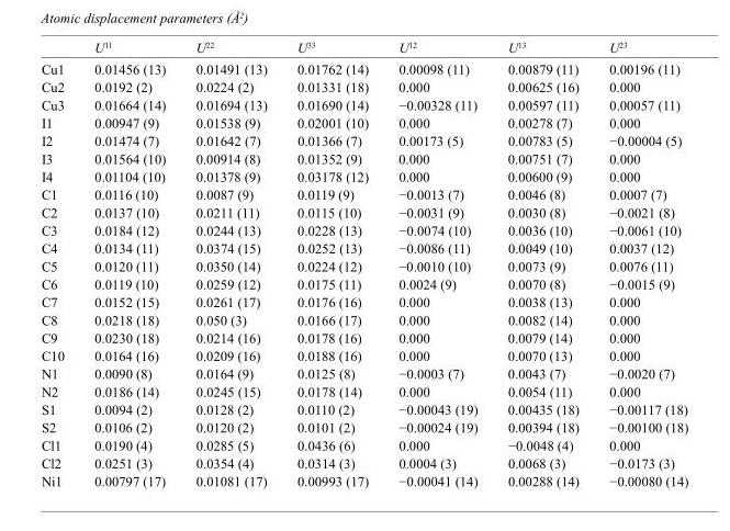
<table><thead><tr><td></td><td>U<sup>11</sup></td><td>U<sup>22</sup></td><td>U<sup>33</sup></td><td>U<sup>12</sup></td><td>U<sup>13</sup></td><td>U<sup>23</sup></td></tr></thead><tbody><tr><td>Cu1</td><td>0.01456 (13)</td><td>0.01491 (13)</td><td>0.01762 (14)</td><td>0.00098 (11)</td><td>0.00879 (11)</td><td>0.00196 (11)</td></tr><tr><td>Cu2</td><td>0.0192 (2)</td><td>0.0224 (2)</td><td>0.01331 (18)</td><td>0.000</td><td>0.00625 (16)</td><td>0.000</td></tr><tr><td>Cu3</td><td>0.01664 (14)</td><td>0.01694 (13)</td><td>0.01690 (14)</td><td>−0.00328 (11)</td><td>0.00597 (11)</td><td>0.00057 (11)</td></tr><tr><td>I1</td><td>0.00947 (9)</td><td>0.01538 (9)</td><td>0.02001 (10)</td><td>0.000</td><td>0.00278 (7)</td><td>0.000</td></tr><tr><td>I2</td><td>0.01474 (7)</td><td>0.01642 (7)</td><td>0.01366 (7)</td><td>0.00173 (5)</td><td>0.00783 (5)</td><td>−0.00004 (5)</td></tr><tr><td>I3</td><td>0.01564 (10)</td><td>0.00914 (8)</td><td>0.01352 (9)</td><td>0.000</td><td>0.00751 (7)</td><td>0.000</td></tr><tr><td>I4</td><td>0.01104 (10)</td><td>0.01378 (9)</td><td>0.03178 (12)</td><td>0.000</td><td>0.00600 (9)</td><td>0.000</td></tr><tr><td>C1</td><td>0.0116 (10)</td><td>0.0087 (9)</td><td>0.0119 (9)</td><td>−0.0013 (7)</td><td>0.0046 (8)</td><td>0.0007 (7)</td></tr><tr><td>C2</td><td>0.0137 (10)</td><td>0.0211 (11)</td><td>0.0115 (10)</td><td>−0.0031 (9)</td><td>0.0030 (8)</td><td>−0.0021 (8)</td></tr><tr><td>C3</td><td>0.0184 (12)</td><td>0.0244 (13)</td><td>0.0228 (13)</td><td>−0.0074 (10)</td><td>0.0036 (10)</td><td>−0.0061 (10)</td></tr><tr><td>C4</td><td>0.0134 (11)</td><td>0.0374 (15)</td><td>0.0252 (13)</td><td>−0.0086 (11)</td><td>0.0049 (10)</td><td>0.0037 (12)</td></tr><tr><td>C5</td><td>0.0120 (11)</td><td>0.0350 (14)</td><td>0.0224 (12)</td><td>−0.0010 (10)</td><td>0.0073 (9)</td><td>0.0076 (11)</td></tr><tr><td>C6</td><td>0.0119 (10)</td><td>0.0259 (12)</td><td>0.0175 (11)</td><td>0.0024 (9)</td><td>0.0070 (8)</td><td>−0.0015 (9)</td></tr><tr><td>C7</td><td>0.0152 (15)</td><td>0.0261 (17)</td><td>0.0176 (16)</td><td>0.000</td><td>0.0038 (13)</td><td>0.000</td></tr><tr><td>C8</td><td>0.0218 (18)</td><td>0.050 (3)</td><td>0.0166 (17)</td><td>0.000</td><td>0.0082 (14)</td><td>0.000</td></tr><tr><td>C9</td><td>0.0230 (18)</td><td>0.0214 (16)</td><td>0.0178 (16)</td><td>0.000</td><td>0.0079 (14)</td><td>0.000</td></tr><tr><td>C10</td><td>0.0164 (16)</td><td>0.0209 (16)</td><td>0.0188 (16)</td><td>0.000</td><td>0.0070 (13)</td><td>0.000</td></tr><tr><td>N1</td><td>0.0090 (8)</td><td>0.0164 (9)</td><td>0.0125 (8)</td><td>−0.0003 (7)</td><td>0.0043 (7)</td><td>−0.0020 (7)</td></tr><tr><td>N2</td><td>0.0186 (14)</td><td>0.0245 (15)</td><td>0.0178 (14)</td><td>0.000</td><td>0.0054 (11)</td><td>0.000</td></tr><tr><td>S1</td><td>0.0094 (2)</td><td>0.0128 (2)</td><td>0.0110 (2)</td><td>−0.00043 (19)</td><td>0.00435 (18)</td><td>−0.00117 (18)</td></tr><tr><td>S2</td><td>0.0106 (2)</td><td>0.0120 (2)</td><td>0.0101 (2)</td><td>−0.00024 (19)</td><td>0.00394 (18)</td><td>−0.00100 (18)</td></tr><tr><td>Cl1</td><td>0.0190 (4)</td><td>0.0285 (5)</td><td>0.0436 (6)</td><td>0.000</td><td>−0.0048 (4)</td><td>0.000</td></tr><tr><td>Cl2</td><td>0.0251 (3)</td><td>0.0354 (4)</td><td>0.0314 (3)</td><td>0.0004 (3)</td><td>0.0068 (3)</td><td>−0.0173 (3)</td></tr><tr><td>Ni1</td><td>0.00797 (17)</td><td>0.01081 (17)</td><td>0.00993 (17)</td><td>−0.00041 (14)</td><td>0.00288 (14)</td><td>−0.00080 (14)</td></tr></tbody></table>